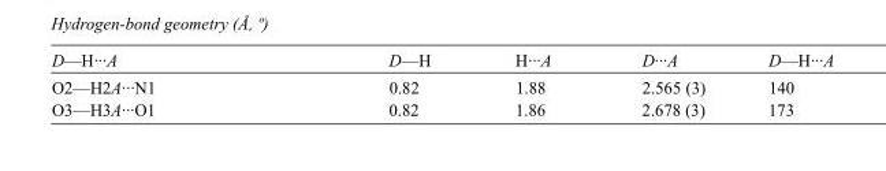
<table><tbody><tr><td>D—H···A</td><td>D—H</td><td>H···A</td><td>D···A</td><td>D—H···A</td></tr><tr><td>O2—H2A···N1</td><td>0.82</td><td>1.88</td><td>2.565 (3)</td><td>140</td></tr><tr><td>O3—H3A···O1</td><td>0.82</td><td>1.86</td><td>2.678 (3)</td><td>173</td></tr></tbody></table>